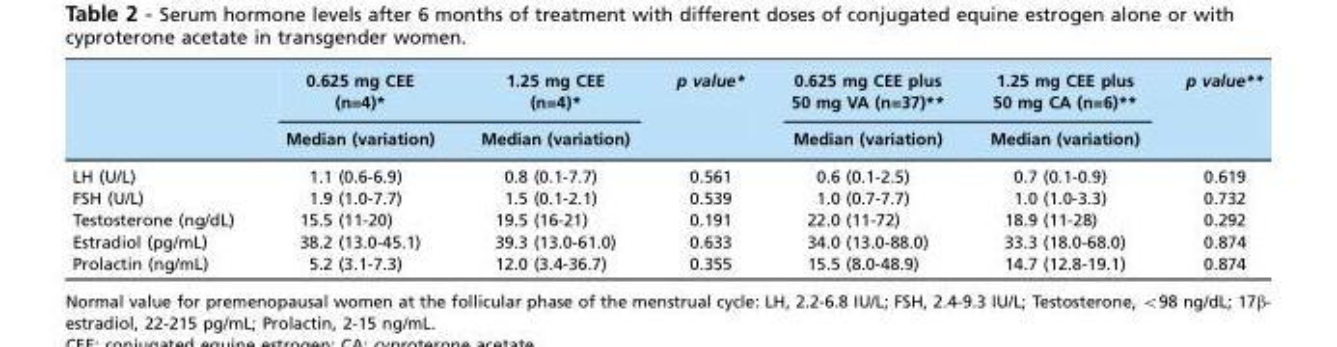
<table><thead><tr><td rowspan="2"></td><td rowspan="2">0.625 mg CEE (n=4)* Median (variation)</td><td rowspan="2">1.25 mg CEE (n=4)* Median (variation)</td><td rowspan="2">p value*</td><td rowspan="2">0.625 mg CEE plus 50 mg VA (n=37)** Median (variation)</td><td rowspan="2">1.25 mg CEE plus 50 mg CA (n=6)** Median (variation)</td><td rowspan="2">p value**</td></tr><tr></tr></thead><tbody><tr><td>LH (U/L)</td><td>1.1 (0.6-6.9)</td><td>0.8 (0.1-7.7)</td><td>0.561</td><td>0.6 (0.1-2.5)</td><td>0.7 (0.1-0.9)</td><td>0.619</td></tr><tr><td>FSH (U/L)</td><td>1.9 (1.0-7.7)</td><td>1.5 (0.1-2.1)</td><td>0.539</td><td>1.0 (0.7-7.7)</td><td>1.0 (1.0-3.3)</td><td>0.732</td></tr><tr><td>Testosterone (ng/dL)</td><td>15.5 (11-20)</td><td>19.5 (16-21)</td><td>0.191</td><td>22.0 (11-72)</td><td>18.9 (11-28)</td><td>0.292</td></tr><tr><td>Estradiol (pg/mL)</td><td>38.2 (13.0-45.1)</td><td>39.3 (13.0-61.0)</td><td>0.633</td><td>34.0 (13.0-88.0)</td><td>33.3 (18.0-68.0)</td><td>0.874</td></tr><tr><td>Prolactin (ng/mL)</td><td>5.2 (3.1-7.3)</td><td>12.0 (3.4-36.7)</td><td>0.355</td><td>15.5 (8.0-48.9)</td><td>14.7 (12.8-19.1)</td><td>0.874</td></tr></tbody></table>